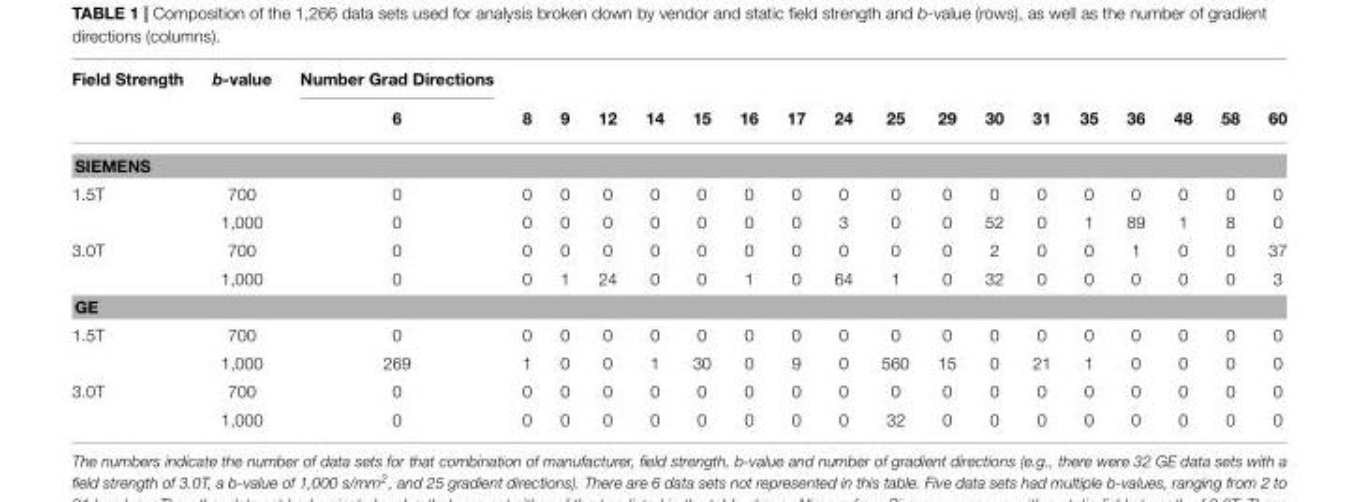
<table><thead><tr><td rowspan="2">Field Strength</td><td rowspan="2">b-value</td><td rowspan="2">Number Grad Directions 6</td><td rowspan="2">8</td><td rowspan="2">9</td><td rowspan="2">12</td><td rowspan="2">14</td><td rowspan="2">15</td><td rowspan="2">16</td><td rowspan="2">17</td><td rowspan="2">24</td><td rowspan="2">25</td><td rowspan="2">29</td><td rowspan="2">30</td><td rowspan="2">31</td><td rowspan="2">35</td><td rowspan="2">36</td><td rowspan="2">48</td><td rowspan="2">58</td><td rowspan="2">60</td></tr><tr></tr></thead><tbody><tr><td colspan="20">SIEMENS</td></tr><tr><td rowspan="2">1.5T</td><td>700</td><td>0</td><td>0</td><td>0</td><td>0</td><td>0</td><td>0</td><td>0</td><td>0</td><td>0</td><td>0</td><td>0</td><td>0</td><td>0</td><td>0</td><td>0</td><td>0</td><td>0</td><td>0</td></tr><tr><td>1,000</td><td>0</td><td>0</td><td>0</td><td>0</td><td>0</td><td>0</td><td>0</td><td>0</td><td>3</td><td>0</td><td>0</td><td>52</td><td>0</td><td>1</td><td>89</td><td>1</td><td>8</td><td>0</td></tr><tr><td rowspan="2">3.0T</td><td>700</td><td>0</td><td>0</td><td>0</td><td>0</td><td>0</td><td>0</td><td>0</td><td>0</td><td>0</td><td>0</td><td>0</td><td>2</td><td>0</td><td>0</td><td>1</td><td>0</td><td>0</td><td>37</td></tr><tr><td>1,000</td><td>0</td><td>0</td><td>1</td><td>24</td><td>0</td><td>0</td><td>1</td><td>0</td><td>64</td><td>1</td><td>0</td><td>32</td><td>0</td><td>0</td><td>0</td><td>0</td><td>0</td><td>3</td></tr><tr><td colspan="20">GE</td></tr><tr><td rowspan="2">1.5T</td><td>700</td><td>0</td><td>0</td><td>0</td><td>0</td><td>0</td><td>0</td><td>0</td><td>0</td><td>0</td><td>0</td><td>0</td><td>0</td><td>0</td><td>0</td><td>0</td><td>0</td><td>0</td><td>0</td></tr><tr><td>1,000</td><td>269</td><td>1</td><td>0</td><td>0</td><td>1</td><td>30</td><td>0</td><td>9</td><td>0</td><td>560</td><td>15</td><td>0</td><td>21</td><td>1</td><td>0</td><td>0</td><td>0</td><td>0</td></tr><tr><td rowspan="2">3.0T</td><td>700</td><td>0</td><td>0</td><td>0</td><td>0</td><td>0</td><td>0</td><td>0</td><td>0</td><td>0</td><td>0</td><td>0</td><td>0</td><td>0</td><td>0</td><td>0</td><td>0</td><td>0</td><td>0</td></tr><tr><td>1,000</td><td>0</td><td>0</td><td>0</td><td>0</td><td>0</td><td>0</td><td>0</td><td>0</td><td>0</td><td>32</td><td>0</td><td>0</td><td>0</td><td>0</td><td>0</td><td>0</td><td>0</td><td>0</td></tr></tbody></table>